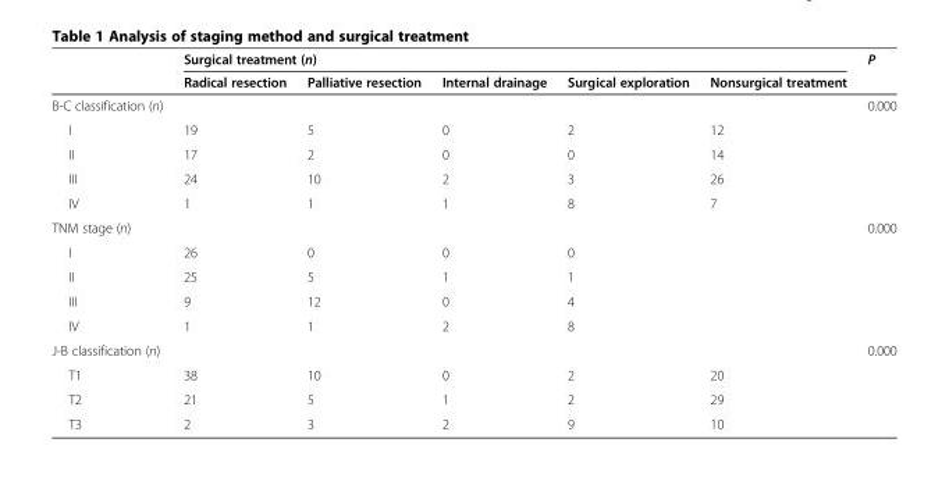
<table><thead><tr><td rowspan="2"></td><td colspan="5">Surgical treatment (n)</td><td rowspan="2">P</td></tr><tr><td>Radical resection</td><td>Palliative resection</td><td>Internal drainage</td><td>Surgical exploration</td><td>Nonsurgical treatment</td></tr></thead><tbody><tr><td>B-C classification (n)</td><td></td><td></td><td></td><td></td><td></td><td>0.000</td></tr><tr><td>I</td><td>19</td><td>5</td><td>0</td><td>2</td><td>12</td><td></td></tr><tr><td>II</td><td>17</td><td>2</td><td>0</td><td>0</td><td>14</td><td></td></tr><tr><td>III</td><td>24</td><td>10</td><td>2</td><td>3</td><td>26</td><td></td></tr><tr><td>IV</td><td>1</td><td>1</td><td>1</td><td>8</td><td>7</td><td></td></tr><tr><td>TNM stage (n)</td><td></td><td></td><td></td><td></td><td></td><td>0.000</td></tr><tr><td>I</td><td>26</td><td>0</td><td>0</td><td>0</td><td></td><td></td></tr><tr><td>II</td><td>25</td><td>5</td><td>1</td><td>1</td><td></td><td></td></tr><tr><td>III</td><td>9</td><td>12</td><td>0</td><td>4</td><td></td><td></td></tr><tr><td>IV</td><td>1</td><td>1</td><td>2</td><td>8</td><td></td><td></td></tr><tr><td>J-B classification (n)</td><td></td><td></td><td></td><td></td><td></td><td>0.000</td></tr><tr><td>T1</td><td>38</td><td>10</td><td>0</td><td>2</td><td>20</td><td></td></tr><tr><td>T2</td><td>21</td><td>5</td><td>1</td><td>2</td><td>29</td><td></td></tr><tr><td>T3</td><td>2</td><td>3</td><td>2</td><td>9</td><td>10</td><td></td></tr></tbody></table>